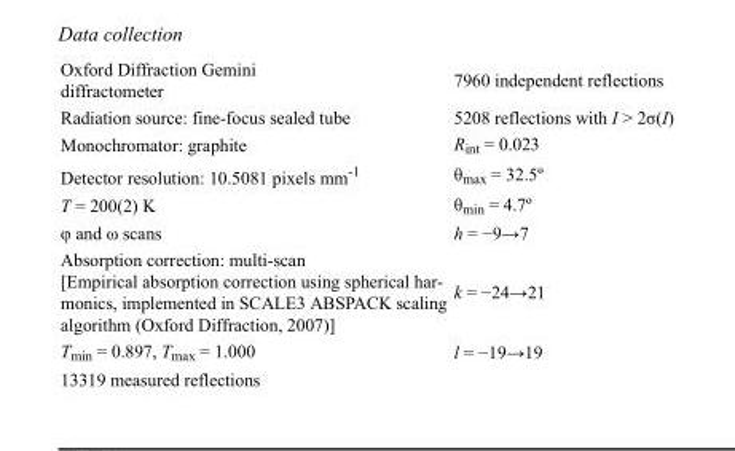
<table><tbody><tr><td>Oxford Diffraction Gemini diffractometer</td><td>7960 independent reflections</td></tr><tr><td>Radiation source: fine-focus sealed tube</td><td>5208 reflections with I &gt; 2σ(I)</td></tr><tr><td>Monochromator: graphite</td><td>R<sub>int</sub> = 0.023</td></tr><tr><td>Detector resolution: 10.5081 pixels mm<sup>-1</sup></td><td>θ<sub>max</sub> = 32.5º</td></tr><tr><td>T = 200(2) K</td><td>θ<sub>min</sub> = 4.7º</td></tr><tr><td>φ and ω scans</td><td>h = −9→7</td></tr><tr><td>Absorption correction: multi-scan [Empirical absorption correction using spherical har- monics, implemented in SCALE3 ABSPACK scaling algorithm (Oxford Diffraction, 2007)]</td><td>k = −24→21</td></tr><tr><td>T<sub>min</sub> = 0.897, T<sub>max</sub> = 1.000</td><td>l = −19→19</td></tr><tr><td>13319 measured reflections</td><td></td></tr></tbody></table>